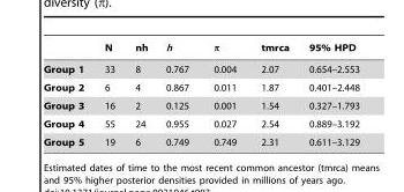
<table><thead><tr><td></td><td>N</td><td>nh</td><td>h</td><td>π</td><td>tmrca</td><td>95% HPD</td></tr></thead><tbody><tr><td>Group 1</td><td>33</td><td>8</td><td>0.767</td><td>0.004</td><td>2.07</td><td>0.654–2.553</td></tr><tr><td>Group 2</td><td>6</td><td>4</td><td>0.867</td><td>0.011</td><td>1.87</td><td>0.401–2.448</td></tr><tr><td>Group 3</td><td>16</td><td>2</td><td>0.125</td><td>0.001</td><td>1.54</td><td>0.327–1.793</td></tr><tr><td>Group 4</td><td>55</td><td>24</td><td>0.955</td><td>0.027</td><td>2.54</td><td>0.889–3.192</td></tr><tr><td>Group 5</td><td>19</td><td>6</td><td>0.749</td><td>0.749</td><td>2.31</td><td>0.611–3.129</td></tr></tbody></table>